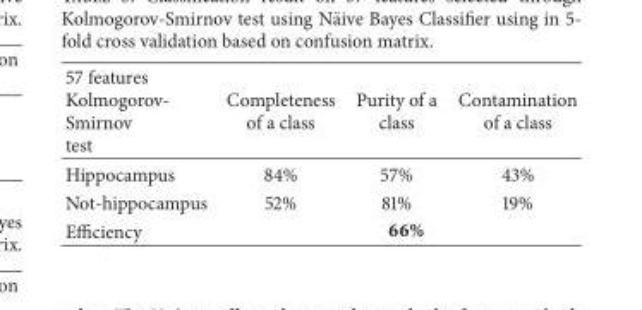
<table><thead><tr><td>57 features Kolmogorov- Smirnov test</td><td>Completeness of a class</td><td>Purity of a class</td><td>Contamination of a class</td></tr></thead><tbody><tr><td>Hippocampus</td><td>84%</td><td>57%</td><td>43%</td></tr><tr><td>Not-hippocampus</td><td>52%</td><td>81%</td><td>19%</td></tr><tr><td>Efficiency</td><td colspan="3">66%</td></tr></tbody></table>